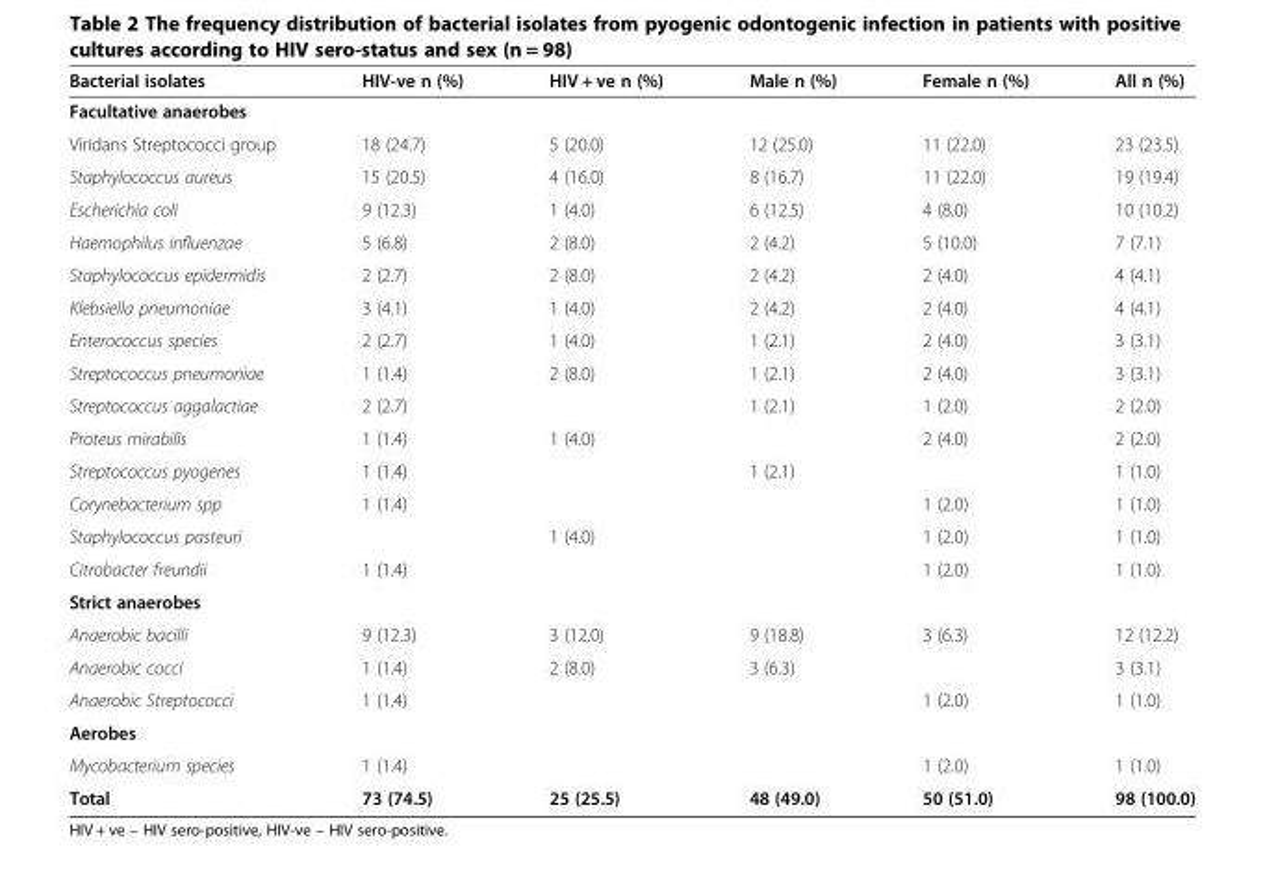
<table><thead><tr><td>BacteriaI isolates</td><td>HIV-ve n (%)</td><td>HIV + ve n (%)</td><td>Male n (%)</td><td>Female n (%)</td><td>All n (%)</td></tr></thead><tbody><tr><td colspan="6">Facultative anaerobes</td></tr><tr><td>Viridans Streptococci group</td><td>18 (24.7)</td><td>5 (20.0)</td><td>12 (25.0)</td><td>11 (22.0)</td><td>23 (23.5)</td></tr><tr><td>Staphylococcus aureus</td><td>15 (20.5)</td><td>4 (16.0)</td><td>8 (16.7)</td><td>11 (22.0)</td><td>19 (19.4)</td></tr><tr><td>Escherichia coli</td><td>9 (12.3)</td><td>1 (4.0)</td><td>6 (12.5)</td><td>4 (8.0)</td><td>10 (10.2)</td></tr><tr><td>Haemophilus influenzae</td><td>5 (6.8)</td><td>2 (8.0)</td><td>2 (4.2)</td><td>5 (10.0)</td><td>7 (7.1)</td></tr><tr><td>Staphylococcus epidermidis</td><td>2 (2.7)</td><td>2 (8.0)</td><td>2 (4.2)</td><td>2 (4.0)</td><td>4 (4.1)</td></tr><tr><td>Klebsiella pneumoniae</td><td>3 (4.1)</td><td>1 (4.0)</td><td>2 (4.2)</td><td>2 (4.0)</td><td>4 (4.1)</td></tr><tr><td>Enterococcus species</td><td>2 (2.7)</td><td>1 (4.0)</td><td>1 (2.1)</td><td>2 (4.0)</td><td>3 (3.1)</td></tr><tr><td>Streptococcus pneumoniae</td><td>1 (1.4)</td><td>2 (8.0)</td><td>1 (2.1)</td><td>2 (4.0)</td><td>3 (3.1)</td></tr><tr><td>Streptococcus aggalactiae</td><td>2 (2.7)</td><td></td><td>1 (2.1)</td><td>1 (2.0)</td><td>2 (2.0)</td></tr><tr><td>Proteus mirabilis</td><td>1 (1.4)</td><td>1 (4.0)</td><td></td><td>2 (4.0)</td><td>2 (2.0)</td></tr><tr><td>Streptococcus pyogenes</td><td>1 (1.4)</td><td></td><td>1 (2.1)</td><td></td><td>1 (1.0)</td></tr><tr><td>Corynebacterium spp</td><td>1 (1.4)</td><td></td><td></td><td>1 (2.0)</td><td>1 (1.0)</td></tr><tr><td>Staphylococcus pasteuri</td><td></td><td>1 (4.0)</td><td></td><td>1 (2.0)</td><td>1 (1.0)</td></tr><tr><td>Citrobacter freundii</td><td>1 (1.4)</td><td></td><td></td><td>1 (2.0)</td><td>1 (1.0)</td></tr><tr><td colspan="6">Strict anaerobes</td></tr><tr><td>Anaerobic bacilli</td><td>9 (12.3)</td><td>3 (12.0)</td><td>9 (18.8)</td><td>3 (6.3)</td><td>12 (12.2)</td></tr><tr><td>Anaerobic cocci</td><td>1 (1.4)</td><td>2 (8.0)</td><td>3 (6.3)</td><td></td><td>3 (3.1)</td></tr><tr><td>Anaerobic Streptococci</td><td>1 (1.4)</td><td></td><td></td><td>1 (2.0)</td><td>1 (1.0)</td></tr><tr><td colspan="6">Aerobes</td></tr><tr><td>Mycobacterium species</td><td>1 (1.4)</td><td></td><td></td><td>1 (2.0)</td><td>1 (1.0)</td></tr><tr><td>Total</td><td>73 (74.5)</td><td>25 (25.5)</td><td>48 (49.0)</td><td>50 (51.0)</td><td>98 (100.0)</td></tr></tbody></table>